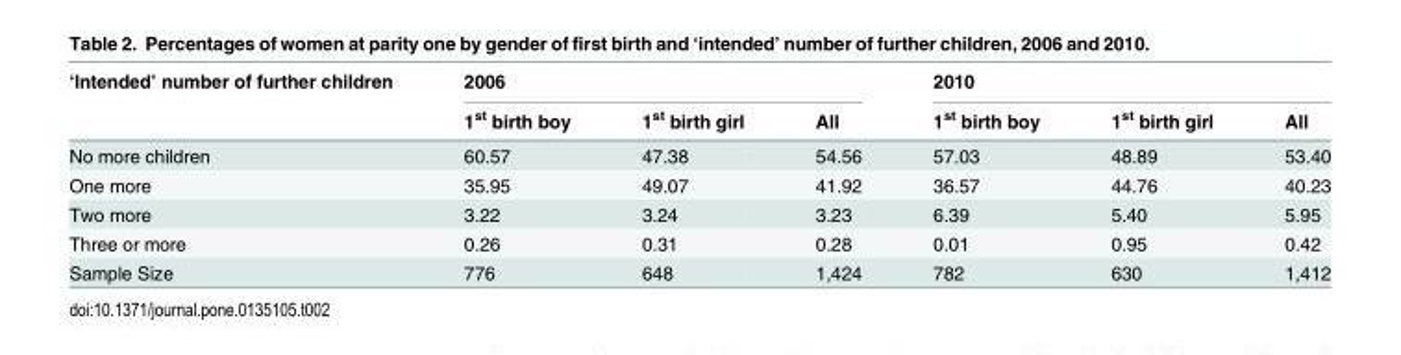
<table><thead><tr><td rowspan="2">‘Intended’ number of further children</td><td colspan="3">2006</td><td colspan="3">2010</td></tr><tr><td>1<sup>st</sup> birth boy</td><td>1<sup>st</sup> birth girl</td><td>All</td><td>1<sup>st</sup> birth boy</td><td>1<sup>st</sup> birth girl</td><td>All</td></tr></thead><tbody><tr><td>No more children</td><td>60.57</td><td>47.38</td><td>54.56</td><td>57.03</td><td>48.89</td><td>53.40</td></tr><tr><td>One more</td><td>35.95</td><td>49.07</td><td>41.92</td><td>36.57</td><td>44.76</td><td>40.23</td></tr><tr><td>Two more</td><td>3.22</td><td>3.24</td><td>3.23</td><td>6.39</td><td>5.40</td><td>5.95</td></tr><tr><td>Three or more</td><td>0.26</td><td>0.31</td><td>0.28</td><td>0.01</td><td>0.95</td><td>0.42</td></tr><tr><td>Sample Size</td><td>776</td><td>648</td><td>1,424</td><td>782</td><td>630</td><td>1,412</td></tr></tbody></table>